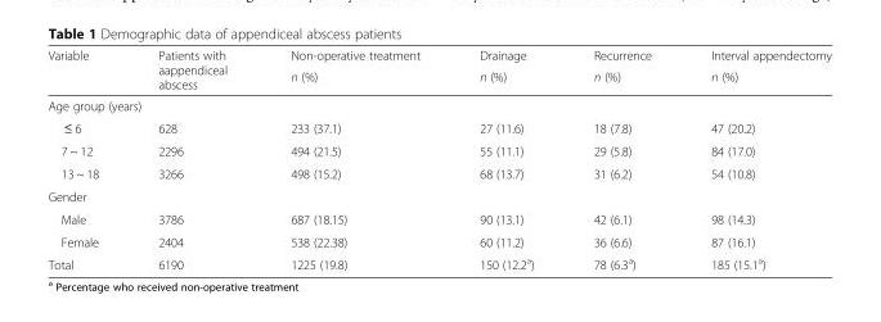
<table><thead><tr><td rowspan="2">Variable</td><td rowspan="2">Patients with aappendiceal abscess</td><td rowspan="2">Non-operative treatment n (%)</td><td rowspan="2">Drainage n (%)</td><td rowspan="2">Recurrence n (%)</td><td rowspan="2">Interval appendectomy n (%)</td></tr><tr></tr></thead><tbody><tr><td colspan="6">Age group (years)</td></tr><tr><td>≤ 6</td><td>628</td><td>233 (37.1)</td><td>27 (11.6)</td><td>18 (7.8)</td><td>47 (20.2)</td></tr><tr><td>7 ~ 12</td><td>2296</td><td>494 (21.5)</td><td>55 (11.1)</td><td>29 (5.8)</td><td>84 (17.0)</td></tr><tr><td>13 ~ 18</td><td>3266</td><td>498 (15.2)</td><td>68 (13.7)</td><td>31 (6.2)</td><td>54 (10.8)</td></tr><tr><td colspan="6">Gender</td></tr><tr><td>Male</td><td>3786</td><td>687 (18.15)</td><td>90 (13.1)</td><td>42 (6.1)</td><td>98 (14.3)</td></tr><tr><td>Female</td><td>2404</td><td>538 (22.38)</td><td>60 (11.2)</td><td>36 (6.6)</td><td>87 (16.1)</td></tr><tr><td>Total</td><td>6190</td><td>1225 (19.8)</td><td>150 (12.2<sup>a</sup>)</td><td>78 (6.3<sup>a</sup>)</td><td>185 (15.1<sup>a</sup>)</td></tr></tbody></table>